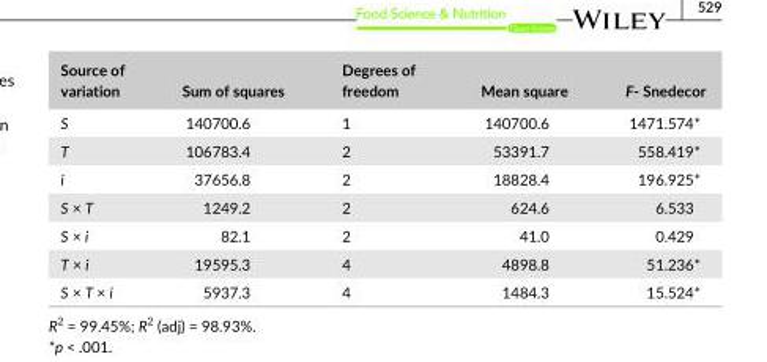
<table><thead><tr><td>Source of variation</td><td>Sum of squares</td><td>Degrees of freedom</td><td>Mean square</td><td>F- Snedecor</td></tr></thead><tbody><tr><td>S</td><td>140700.6</td><td>1</td><td>140700.6</td><td>1471.574*</td></tr><tr><td>T</td><td>106783.4</td><td>2</td><td>53391.7</td><td>558.419*</td></tr><tr><td>i</td><td>37656.8</td><td>2</td><td>18828.4</td><td>196.925*</td></tr><tr><td>S × T</td><td>1249.2</td><td>2</td><td>624.6</td><td>6.533</td></tr><tr><td>S × i</td><td>82.1</td><td>2</td><td>41.0</td><td>0.429</td></tr><tr><td>T × i</td><td>19595.3</td><td>4</td><td>4898.8</td><td>51.236*</td></tr><tr><td>S × T × i</td><td>5937.3</td><td>4</td><td>1484.3</td><td>15.524*</td></tr></tbody></table>